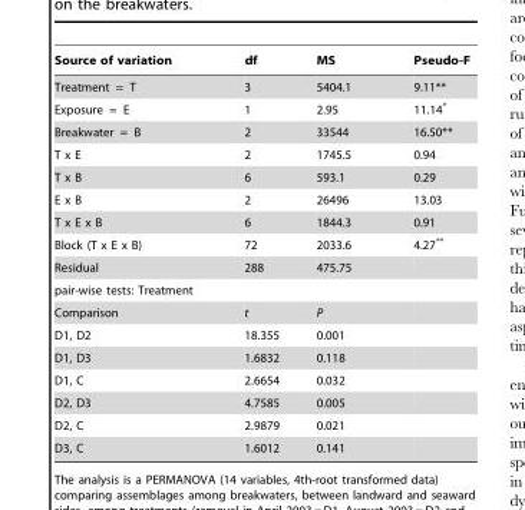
<table><thead><tr><td>Source of variation</td><td>df</td><td>MS</td><td>Pseudo-F</td></tr></thead><tbody><tr><td>Treatment = T</td><td>3</td><td>5404.1</td><td>9.11**</td></tr><tr><td>Exposure = E</td><td>1</td><td>2.95</td><td>11.14*</td></tr><tr><td>Breakwater = B</td><td>2</td><td>33544</td><td>16.50**</td></tr><tr><td>T x E</td><td>2</td><td>1745.5</td><td>0.94</td></tr><tr><td>T x B</td><td>6</td><td>593.1</td><td>0.29</td></tr><tr><td>E x B</td><td>2</td><td>26496</td><td>13.03</td></tr><tr><td>T x E x B</td><td>6</td><td>1844.3</td><td>0.91</td></tr><tr><td>Block (T x E x B)</td><td>72</td><td>2033.6</td><td>4.27**</td></tr><tr><td>Residual</td><td>288</td><td>475.75</td><td></td></tr><tr><td colspan="4">pair-wise tests: Treatment</td></tr><tr><td>Comparison</td><td>t</td><td>P</td><td></td></tr><tr><td>D1, D2</td><td>18.355</td><td>0.001</td><td></td></tr><tr><td>D1, D3</td><td>1.6832</td><td>0.118</td><td></td></tr><tr><td>D1, C</td><td>2.6654</td><td>0.032</td><td></td></tr><tr><td>D2, D3</td><td>4.7585</td><td>0.005</td><td></td></tr><tr><td>D2, C</td><td>2.9879</td><td>0.021</td><td></td></tr><tr><td>D3, C</td><td>1.6012</td><td>0.141</td><td></td></tr></tbody></table>